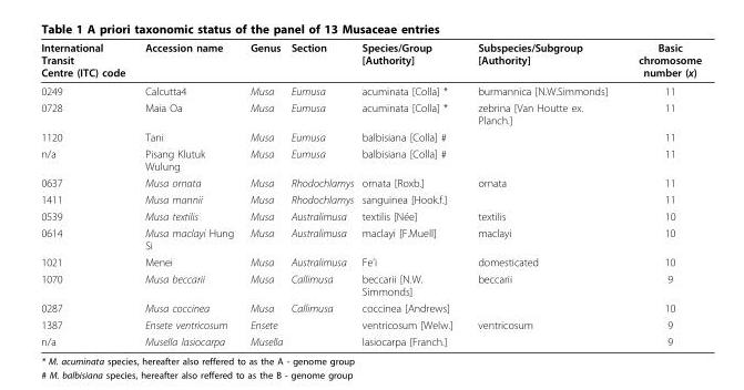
<table><thead><tr><td>International Transit Centre (ITC) code</td><td>Accession name</td><td>Genus</td><td>Section</td><td>Species/Group [Authority]</td><td>Subspecies/Subgroup [Authority]</td><td>Basic chromosome number (x)</td></tr></thead><tbody><tr><td>0249</td><td>Calcutta4</td><td>Musa</td><td>Eumusa</td><td>acuminata [Colla] *</td><td>burmannica [N.W.Simmonds]</td><td>11</td></tr><tr><td>0728</td><td>Maia Oa</td><td>Musa</td><td>Eumusa</td><td>acuminata [Colla] *</td><td>zebrina [Van Houtte ex. Planch.]</td><td>11</td></tr><tr><td>1120</td><td>Tani</td><td>Musa</td><td>Eumusa</td><td>balbisiana [Colla] #</td><td></td><td>11</td></tr><tr><td>n/a</td><td>Pisang Klutuk Wulung</td><td>Musa</td><td>Eumusa</td><td>balbisiana [Colla] #</td><td></td><td>11</td></tr><tr><td>0637</td><td>Musa ornata</td><td>Musa</td><td>Rhodochlamys</td><td>ornata [Roxb.]</td><td>ornata</td><td>11</td></tr><tr><td>1411</td><td>Musa mannii</td><td>Musa</td><td>Rhodochlamys</td><td>sanguinea [Hook.f.]</td><td></td><td>11</td></tr><tr><td>0539</td><td>Musa textilis</td><td>Musa</td><td>Australimusa</td><td>textilis [Née]</td><td>textilis</td><td>10</td></tr><tr><td>0614</td><td>Musa maclayi Hung Si</td><td>Musa</td><td>Australimusa</td><td>maclayi [F.Muell]</td><td>maclayi</td><td>10</td></tr><tr><td>1021</td><td>Menei</td><td>Musa</td><td>Australimusa</td><td>Fe’i</td><td>domesticated</td><td>10</td></tr><tr><td>1070</td><td>Musa beccarii</td><td>Musa</td><td>Callimusa</td><td>beccarii [N.W. Simmonds]</td><td>beccarii</td><td>9</td></tr><tr><td>0287</td><td>Musa coccinea</td><td>Musa</td><td>Callimusa</td><td>coccinea [Andrews]</td><td></td><td>10</td></tr><tr><td>1387</td><td>Ensete ventricosum</td><td>Ensete</td><td></td><td>ventricosum [Welw.]</td><td>ventricosum</td><td>9</td></tr><tr><td>n/a</td><td>Musella lasiocarpa</td><td>Musella</td><td></td><td>lasiocarpa [Franch.]</td><td></td><td>9</td></tr></tbody></table>